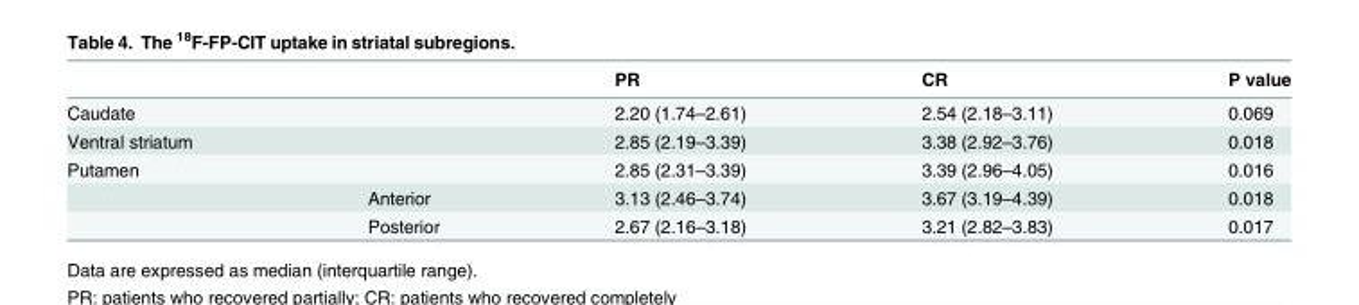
<table><thead><tr><td></td><td></td><td>PR</td><td>CR</td><td>P value</td></tr></thead><tbody><tr><td>Caudate</td><td></td><td>2.20 (1.74–2.61)</td><td>2.54 (2.18–3.11)</td><td>0.069</td></tr><tr><td>Ventral striatum</td><td></td><td>2.85 (2.19–3.39)</td><td>3.38 (2.92–3.76)</td><td>0.018</td></tr><tr><td rowspan="3">Putamen</td><td></td><td>2.85 (2.31–3.39)</td><td>3.39 (2.96–4.05)</td><td>0.016</td></tr><tr><td>Anterior</td><td>3.13 (2.46–3.74)</td><td>3.67 (3.19–4.39)</td><td>0.018</td></tr><tr><td>Posterior</td><td>2.67 (2.16–3.18)</td><td>3.21 (2.82–3.83)</td><td>0.017</td></tr></tbody></table>